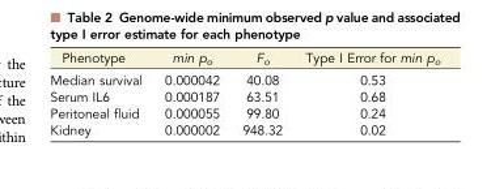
<table><thead><tr><td>Phenotype</td><td>min p<sub>o</sub></td><td>F<sub>o</sub></td><td>Type I Error for min p<sub>o</sub></td></tr></thead><tbody><tr><td>Median survival</td><td>0.000042</td><td>40.08</td><td>0.53</td></tr><tr><td>Serum IL6</td><td>0.000187</td><td>63.51</td><td>0.68</td></tr><tr><td>Peritoneal fluid</td><td>0.000055</td><td>99.80</td><td>0.24</td></tr><tr><td>Kidney</td><td>0.000002</td><td>948.32</td><td>0.02</td></tr></tbody></table>